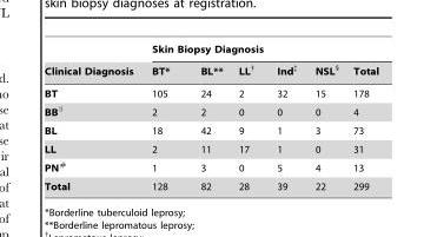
<table><thead><tr><td rowspan="2">Clinical Diagnosis</td><td colspan="6">Skin Biopsy Diagnosis</td></tr><tr><td>BT*</td><td>BL**</td><td>LL†</td><td>Ind‡</td><td>NSL§</td><td>Total</td></tr></thead><tbody><tr><td>BT</td><td>105</td><td>24</td><td>2</td><td>32</td><td>15</td><td>178</td></tr><tr><td>BB∥</td><td>2</td><td>2</td><td>0</td><td>0</td><td>0</td><td>4</td></tr><tr><td>BL</td><td>18</td><td>42</td><td>9</td><td>1</td><td>3</td><td>73</td></tr><tr><td>LL</td><td>2</td><td>11</td><td>17</td><td>1</td><td>0</td><td>31</td></tr><tr><td>PN#</td><td>1</td><td>3</td><td>0</td><td>5</td><td>4</td><td>13</td></tr><tr><td>Total</td><td>128</td><td>82</td><td>28</td><td>39</td><td>22</td><td>299</td></tr></tbody></table>